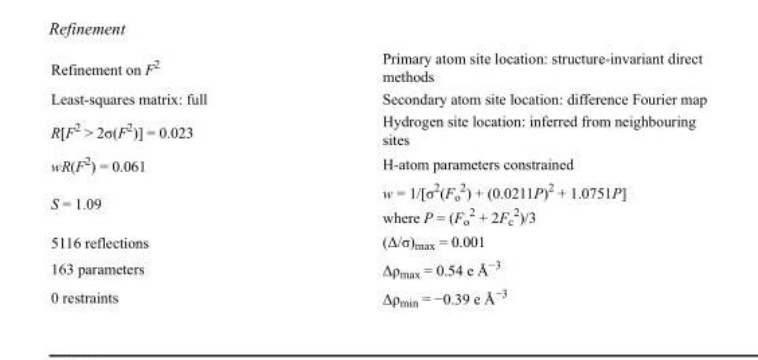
<table><tbody><tr><td>Refinement on F<sup>2</sup></td><td>Primary atom site location: structure-invariant direct methods</td></tr><tr><td>Least-squares matrix: full</td><td>Secondary atom site location: difference Fourier map</td></tr><tr><td>R[F<sup>2</sup> &gt; 2σ(F<sup>2</sup>)] = 0.023</td><td>Hydrogen site location: inferred from neighbouring sites</td></tr><tr><td>wR(F<sup>2</sup>) = 0.061</td><td>H-atom parameters constrained</td></tr><tr><td>S = 1.09</td><td>w = 1/[σ<sup>2</sup>(F<sub>o</sub> <sup>2</sup>) + (0.0211P)<sup>2</sup> + 1.0751P] where P = (F<sub>o</sub> <sup>2</sup> + 2F<sub>c</sub> <sup>2</sup>)/3</td></tr><tr><td>5116 reflections</td><td>(Δ/σ)<sub>max</sub> = 0.001</td></tr><tr><td>163 parameters</td><td>Δρ<sub>max</sub> = 0.54 e Å<sup>−3</sup></td></tr><tr><td>0 restraints</td><td>Δρ<sub>min</sub> = −0.39 e Å<sup>−3</sup></td></tr></tbody></table>